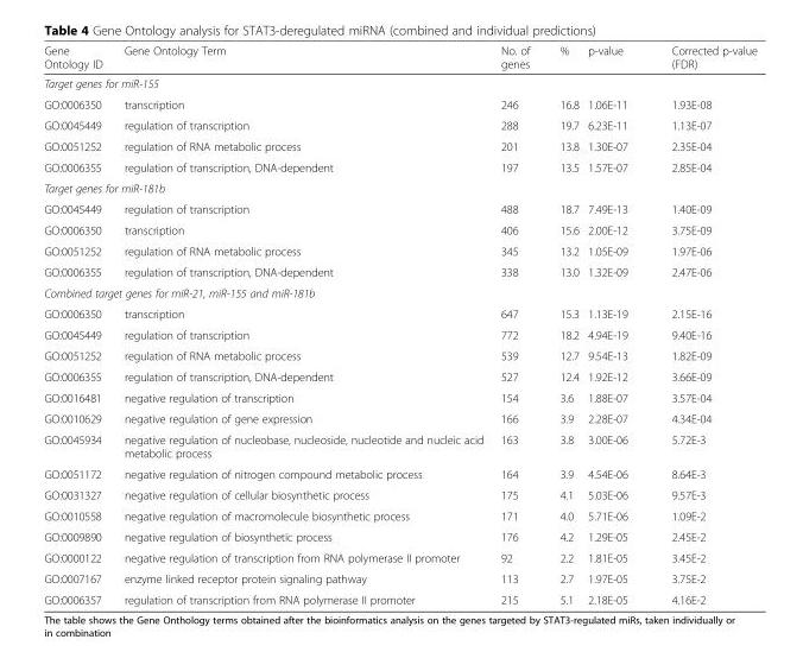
<table><thead><tr><td>Gene Ontology ID</td><td>Gene Ontology Term</td><td>No. of genes</td><td>%</td><td>p-value</td><td>Corrected p-value (FDR)</td></tr></thead><tbody><tr><td colspan="6">Target genes for miR-155</td></tr><tr><td>GO:0006350</td><td>transcription</td><td>246</td><td>16.8</td><td>1.06E-11</td><td>1.93E-08</td></tr><tr><td>GO:0045449</td><td>regulation of transcription</td><td>288</td><td>19.7</td><td>6.23E-11</td><td>1.13E-07</td></tr><tr><td>GO:0051252</td><td>regulation of RNA metabolic process</td><td>201</td><td>13.8</td><td>1.30E-07</td><td>2.35E-04</td></tr><tr><td>GO:0006355</td><td>regulation of transcription, DNA-dependent</td><td>197</td><td>13.5</td><td>1.57E-07</td><td>2.85E-04</td></tr><tr><td colspan="6">Target genes for miR-181b</td></tr><tr><td>GO:0045449</td><td>regulation of transcription</td><td>488</td><td>18.7</td><td>7.49E-13</td><td>1.40E-09</td></tr><tr><td>GO:0006350</td><td>transcription</td><td>406</td><td>15.6</td><td>2.00E-12</td><td>3.75E-09</td></tr><tr><td>GO:0051252</td><td>regulation of RNA metabolic process</td><td>345</td><td>13.2</td><td>1.05E-09</td><td>1.97E-06</td></tr><tr><td>GO:0006355</td><td>regulation of transcription, DNA-dependent</td><td>338</td><td>13.0</td><td>1.32E-09</td><td>2.47E-06</td></tr><tr><td colspan="6">Combined target genes for miR-21, miR-155 and miR-181b</td></tr><tr><td>GO:0006350</td><td>transcription</td><td>647</td><td>15.3</td><td>1.13E-19</td><td>2.15E-16</td></tr><tr><td>GO:0045449</td><td>regulation of transcription</td><td>772</td><td>18.2</td><td>4.94E-19</td><td>9.40E-16</td></tr><tr><td>GO:0051252</td><td>regulation of RNA metabolic process</td><td>539</td><td>12.7</td><td>9.54E-13</td><td>1.82E-09</td></tr><tr><td>GO:0006355</td><td>regulation of transcription, DNA-dependent</td><td>527</td><td>12.4</td><td>1.92E-12</td><td>3.66E-09</td></tr><tr><td>GO:0016481</td><td>negative regulation of transcription</td><td>154</td><td>3.6</td><td>1.88E-07</td><td>3.57E-04</td></tr><tr><td>GO:0010629</td><td>negative regulation of gene expression</td><td>166</td><td>3.9</td><td>2.28E-07</td><td>4.34E-04</td></tr><tr><td>GO:0045934</td><td>negative regulation of nucleobase, nucleoside, nucleotide and nucleic acid metabolic process</td><td>163</td><td>3.8</td><td>3.00E-06</td><td>5.72E-3</td></tr><tr><td>GO:0051172</td><td>negative regulation of nitrogen compound metabolic process</td><td>164</td><td>3.9</td><td>4.54E-06</td><td>8.64E-3</td></tr><tr><td>GO:0031327</td><td>negative regulation of cellular biosynthetic process</td><td>175</td><td>4.1</td><td>5.03E-06</td><td>9.57E-3</td></tr><tr><td>GO:0010558</td><td>negative regulation of macromolecule biosynthetic process</td><td>171</td><td>4.0</td><td>5.71E-06</td><td>1.09E-2</td></tr><tr><td>GO:0009890</td><td>negative regulation of biosynthetic process</td><td>176</td><td>4.2</td><td>1.29E-05</td><td>2.45E-2</td></tr><tr><td>GO:0000122</td><td>negative regulation of transcription from RNA polymerase II promoter</td><td>92</td><td>2.2</td><td>1.81E-05</td><td>3.45E-2</td></tr><tr><td>GO:0007167</td><td>enzyme linked receptor protein signaling pathway</td><td>113</td><td>2.7</td><td>1.97E-05</td><td>3.75E-2</td></tr><tr><td>GO:0006357</td><td>regulation of transcription from RNA polymerase II promoter</td><td>215</td><td>5.1</td><td>2.18E-05</td><td>4.16E-2</td></tr></tbody></table>